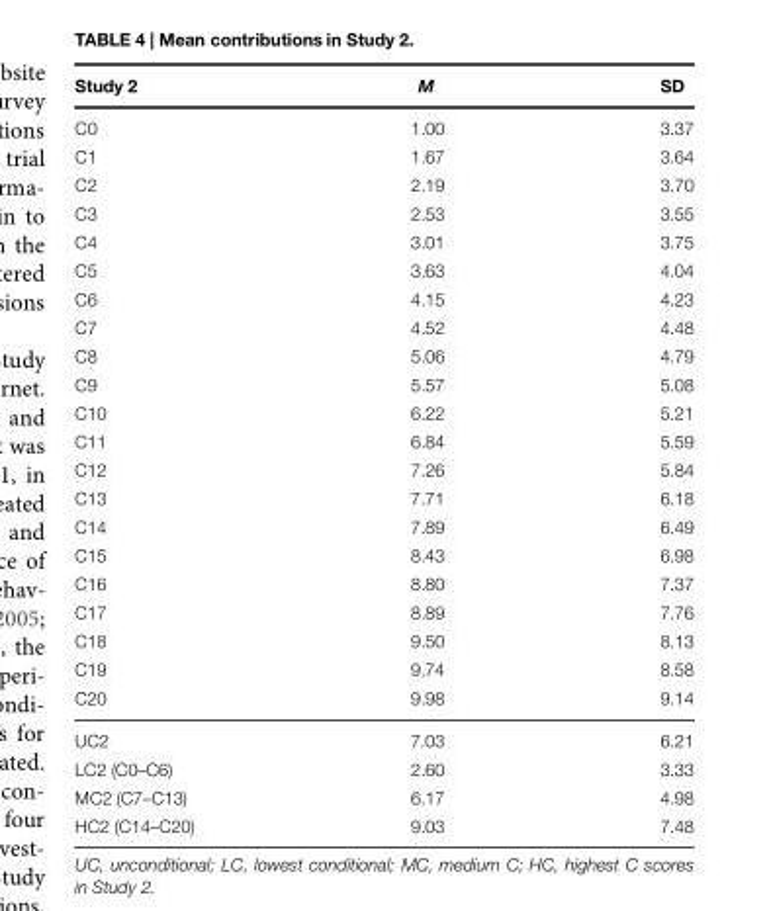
<table><thead><tr><td>Study 2</td><td>M</td><td>SD</td></tr></thead><tbody><tr><td>C0</td><td>1.00</td><td>3.37</td></tr><tr><td>C1</td><td>1.67</td><td>3.64</td></tr><tr><td>C2</td><td>2.19</td><td>3.70</td></tr><tr><td>C3</td><td>2.53</td><td>3.55</td></tr><tr><td>C4</td><td>3.01</td><td>3.75</td></tr><tr><td>C5</td><td>3.63</td><td>4.04</td></tr><tr><td>C6</td><td>4.15</td><td>4.23</td></tr><tr><td>C7</td><td>4.52</td><td>4.48</td></tr><tr><td>C8</td><td>5.06</td><td>4.79</td></tr><tr><td>C9</td><td>5.57</td><td>5.08</td></tr><tr><td>C10</td><td>6.22</td><td>5.21</td></tr><tr><td>C11</td><td>6.84</td><td>5.59</td></tr><tr><td>C12</td><td>7.26</td><td>5.84</td></tr><tr><td>C13</td><td>7.71</td><td>6.18</td></tr><tr><td>C14</td><td>7.89</td><td>6.49</td></tr><tr><td>C15</td><td>8.43</td><td>6.98</td></tr><tr><td>C16</td><td>8.80</td><td>7.37</td></tr><tr><td>C17</td><td>8.89</td><td>7.76</td></tr><tr><td>C18</td><td>9.50</td><td>8.13</td></tr><tr><td>C19</td><td>9.74</td><td>8.58</td></tr><tr><td>C20</td><td>9.98</td><td>9.14</td></tr><tr><td>UC2</td><td>7.03</td><td>6.21</td></tr><tr><td>LC2 (C0–C6)</td><td>2.60</td><td>3.33</td></tr><tr><td>MC2 (C7–C13)</td><td>6.17</td><td>4.98</td></tr><tr><td>HC2 (C14–C20)</td><td>9.03</td><td>7.48</td></tr></tbody></table>